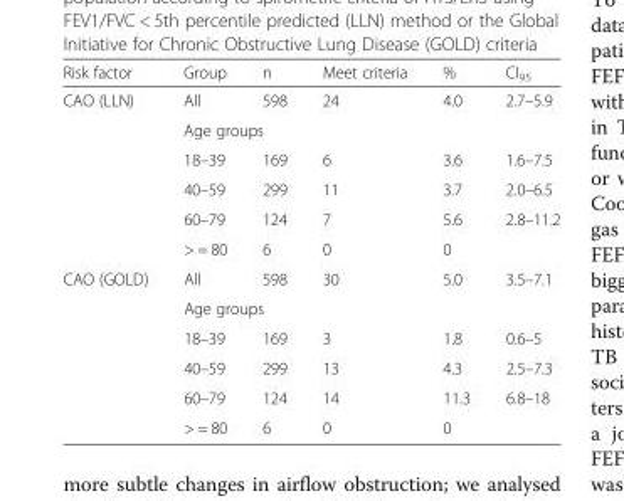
<table><thead><tr><td>Risk factor</td><td>Group</td><td>n</td><td>Meet criteria</td><td>%</td><td>CI<sub>95</sub></td></tr></thead><tbody><tr><td rowspan="6">CAO (LLN)</td><td>All</td><td>598</td><td>24</td><td>4.0</td><td>2.7–5.9</td></tr><tr><td colspan="5">Age groups</td></tr><tr><td>18–39</td><td>169</td><td>6</td><td>3.6</td><td>1.6–7.5</td></tr><tr><td>40–59</td><td>299</td><td>11</td><td>3.7</td><td>2.0–6.5</td></tr><tr><td>60–79</td><td>124</td><td>7</td><td>5.6</td><td>2.8–11.2</td></tr><tr><td>&gt; = 80</td><td>6</td><td>0</td><td>0</td><td></td></tr><tr><td rowspan="6">CAO (GOLD)</td><td>All</td><td>598</td><td>30</td><td>5.0</td><td>3.5–7.1</td></tr><tr><td colspan="5">Age groups</td></tr><tr><td>18–39</td><td>169</td><td>3</td><td>1.8</td><td>0.6–5</td></tr><tr><td>40–59</td><td>299</td><td>13</td><td>4.3</td><td>2.5–7.3</td></tr><tr><td>60–79</td><td>124</td><td>14</td><td>11.3</td><td>6.8–18</td></tr><tr><td>&gt; = 80</td><td>6</td><td>0</td><td>0</td><td></td></tr></tbody></table>